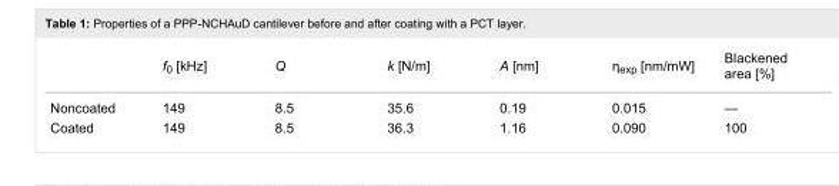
<table><thead><tr><td></td><td>f0 [kHz]</td><td>Q</td><td>k [N/m]</td><td>A [nm]</td><td>η<sub>exp</sub> [nm/mW]</td><td>Blackened area [%]</td></tr></thead><tbody><tr><td>Noncoated</td><td>149</td><td>8.5</td><td>35.6</td><td>0.19</td><td>0.015</td><td>—</td></tr><tr><td>Coated</td><td>149</td><td>8.5</td><td>36.3</td><td>1.16</td><td>0.090</td><td>100</td></tr></tbody></table>